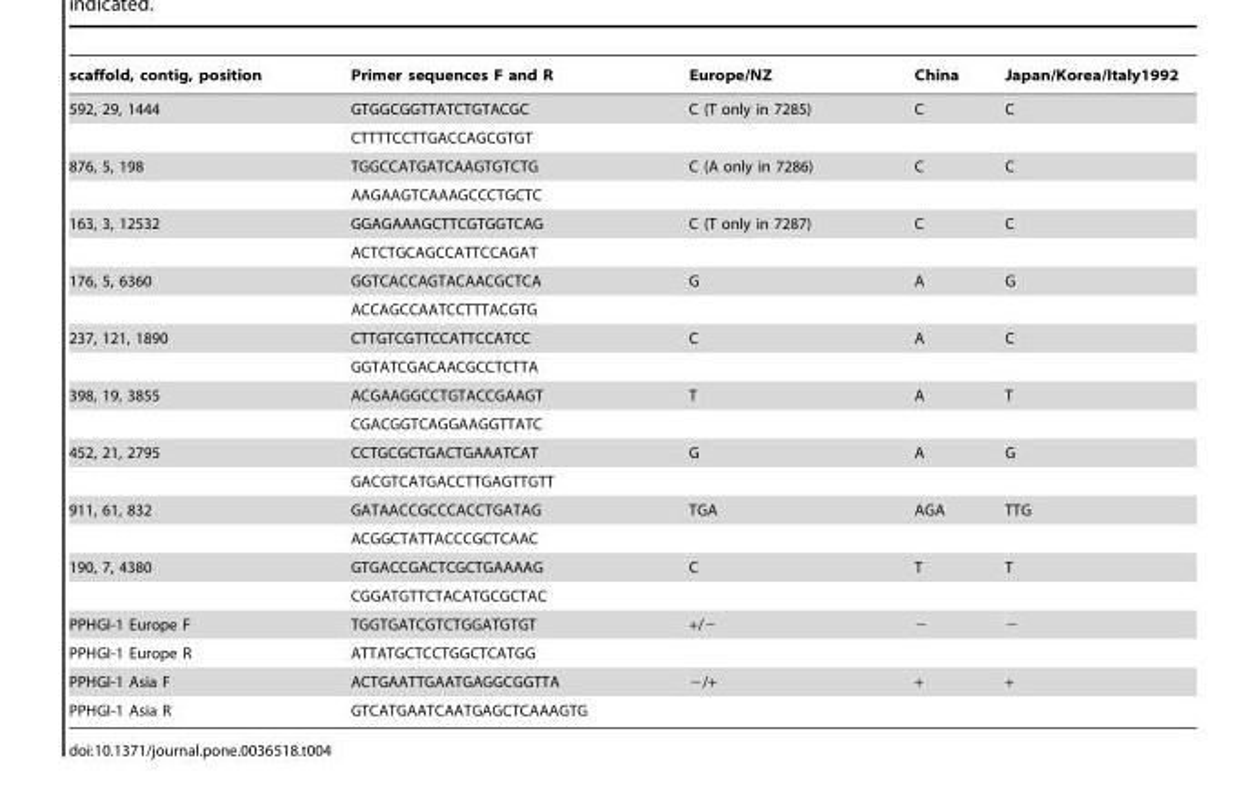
<table><thead><tr><td>scaffold, contig, position</td><td>Primer sequences F and R</td><td>Europe/NZ</td><td>China</td><td>Japan/Korea/Italy1992</td></tr></thead><tbody><tr><td rowspan="2">592, 29, 1444</td><td>GTGGCGGTTATCTGTACGC</td><td>C (T only in 7285)</td><td>C</td><td>C</td></tr><tr><td>CTTTTCCTTGACCAGCGTGT</td><td></td><td></td><td></td></tr><tr><td rowspan="2">876, 5, 198</td><td>TGGCCATGATCAAGTGTCTG</td><td>C (A only in 7286)</td><td>C</td><td>C</td></tr><tr><td>AAGAAGTCAAAGCCCTGCTC</td><td></td><td></td><td></td></tr><tr><td rowspan="2">163, 3, 12532</td><td>GGAGAAAGCTTCGTGGTCAG</td><td>C (T only in 7287)</td><td>C</td><td>C</td></tr><tr><td>ACTCTGCAGCCATTCCAGAT</td><td></td><td></td><td></td></tr><tr><td rowspan="2">176, 5, 6360</td><td>GGTCACCAGTACAACGCTCA</td><td>G</td><td>A</td><td>G</td></tr><tr><td>ACCAGCCAATCCTTTACGTG</td><td></td><td></td><td></td></tr><tr><td rowspan="2">237, 121, 1890</td><td>CTTGTCGTTCCATTCCATCC</td><td>C</td><td>A</td><td>C</td></tr><tr><td>GGTATCGACAACGCCTCTTA</td><td></td><td></td><td></td></tr><tr><td rowspan="2">398, 19, 3855</td><td>ACGAAGGCCTGTACCGAAGT</td><td>T</td><td>A</td><td>T</td></tr><tr><td>CGACGGTCAGGAAGGTTATC</td><td></td><td></td><td></td></tr><tr><td rowspan="2">452, 21, 2795</td><td>CCTGCGCTGACTGAAATCAT</td><td>G</td><td>A</td><td>G</td></tr><tr><td>GACGTCATGACCTTGAGTTGTT</td><td></td><td></td><td></td></tr><tr><td rowspan="2">911, 61, 832</td><td>GATAACCGCCCACCTGATAG</td><td>TGA</td><td>AGA</td><td>TTG</td></tr><tr><td>ACGGCTATTACCCGCTCAAC</td><td></td><td></td><td></td></tr><tr><td rowspan="2">190, 7, 4380</td><td>GTGACCGACTCGCTGAAAAG</td><td>C</td><td>T</td><td>T</td></tr><tr><td>CGGATGTTCTACATGCGCTAC</td><td></td><td></td><td></td></tr><tr><td>PPHGI-1 Europe F</td><td>TGGTGATCGTCTGGATGTGT</td><td>+/−</td><td>−</td><td>−</td></tr><tr><td>PPHGI-1 Europe R</td><td>ATTATGCTCCTGGCTCATGG</td><td></td><td></td><td></td></tr><tr><td>PPHGI-1 Asia F</td><td>ACTGAATTGAATGAGGCGGTTA</td><td>−/+</td><td>+</td><td>+</td></tr><tr><td>PPHGI-1 Asia R</td><td>GTCATGAATCAATGAGCTCAAAGTG</td><td></td><td></td><td></td></tr></tbody></table>